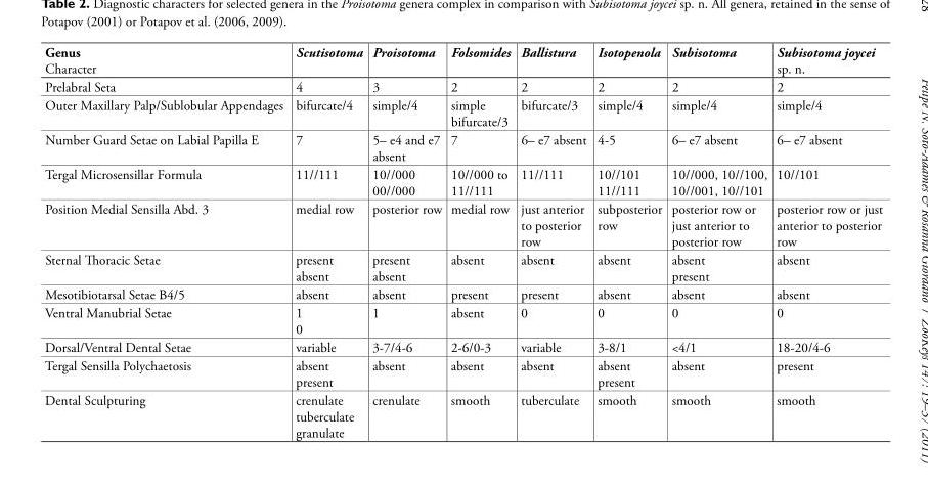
<table><tbody><tr><td>Genus Character</td><td>Scutisotoma</td><td>Proisotoma</td><td>Folsomides</td><td>Ballistura</td><td>Isotopenola</td><td>Subisotoma</td><td>Subisotoma joycei sp. n.</td></tr><tr><td>Prelabral Seta</td><td>4</td><td>3</td><td>2</td><td>2</td><td>2</td><td>2</td><td>2</td></tr><tr><td>Outer Maxillary Palp/Sublobular Appendages</td><td>bifurcate/4</td><td>simple/4</td><td>simple bifurcate/3</td><td>bifurcate/3</td><td>simple/4</td><td>simple/4</td><td>simple/4</td></tr><tr><td>Number Guard Setae on Labial Papilla E</td><td>7</td><td>5– e4 and e7 absent</td><td>7</td><td>6– e7 absent</td><td>4-5</td><td>6– e7 absent</td><td>6– e7 absent</td></tr><tr><td>Tergal Microsensillar Formula</td><td>11//111</td><td>10//000 00//000</td><td>10//000 to 11//111</td><td>11//111</td><td>10//101 11//111</td><td>10//000, 10//100, 10//001, 10//101</td><td>10//101</td></tr><tr><td>Position Medial Sensilla Abd. 3</td><td>medial row</td><td>posterior row</td><td>medial row</td><td>just anterior to posterior row</td><td>subposterior row</td><td>posterior row or just anterior to posterior row</td><td>posterior row or just anterior to posterior row</td></tr><tr><td>Sternal Thoracic Setae</td><td>present absent</td><td>present absent</td><td>absent</td><td>absent</td><td>absent</td><td>absent present</td><td>absent</td></tr><tr><td>Mesotibiotarsal Setae B4/5</td><td>absent</td><td>absent</td><td>present</td><td>present</td><td>absent</td><td>absent</td><td>absent</td></tr><tr><td>Ventral Manubrial Setae</td><td>1 0</td><td>1</td><td>absent</td><td>0</td><td>0</td><td>0</td><td>0</td></tr><tr><td>Dorsal/Ventral Dental Setae</td><td>variable</td><td>3-7/4-6</td><td>2-6/0-3</td><td>variable</td><td>3-8/1</td><td>&lt;4/1</td><td>18-20/4-6</td></tr><tr><td>Tergal Sensilla Polychaetosis</td><td>absent present</td><td>absent</td><td>absent</td><td>absent</td><td>absent present</td><td>absent</td><td>present</td></tr><tr><td>Dental Sculpturing</td><td>crenulate tuberculate granulate</td><td>crenulate</td><td>smooth</td><td>tuberculate</td><td>smooth</td><td>smooth</td><td>smooth</td></tr></tbody></table>